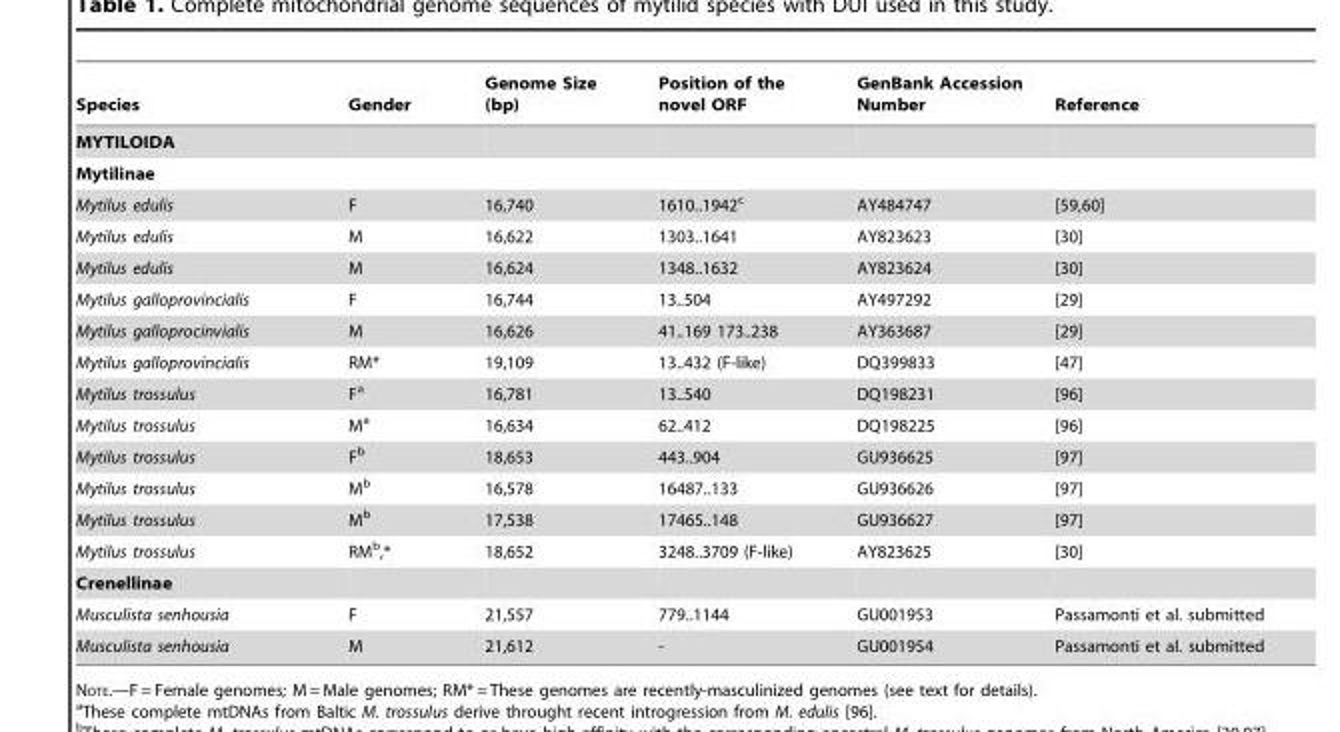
<table><thead><tr><td>Species</td><td>Gender</td><td>Genome Size (bp)</td><td>Position of the novel ORF</td><td>GenBank Accession Number</td><td>Reference</td></tr></thead><tbody><tr><td colspan="6">MYTILOIDA</td></tr><tr><td colspan="6">Mytilinae</td></tr><tr><td>Mytilus edulis</td><td>F</td><td>16,740</td><td>1610..1942<sup>c</sup></td><td>AY484747</td><td>[59,60]</td></tr><tr><td>Mytilus edulis</td><td>M</td><td>16,622</td><td>1303..1641</td><td>AY823623</td><td>[30]</td></tr><tr><td>Mytilus edulis</td><td>M</td><td>16,624</td><td>1348..1632</td><td>AY823624</td><td>[30]</td></tr><tr><td>Mytilus galloprovincialis</td><td>F</td><td>16,744</td><td>13..504</td><td>AY497292</td><td>[29]</td></tr><tr><td>Mytilus galloprocinvialis</td><td>M</td><td>16,626</td><td>41..169 173..238</td><td>AY363687</td><td>[29]</td></tr><tr><td>Mytilus galloprovincialis</td><td>RM*</td><td>19,109</td><td>13..432 (F-like)</td><td>DQ399833</td><td>[47]</td></tr><tr><td>Mytilus trossulus</td><td>F<sup>a</sup></td><td>16,781</td><td>13..540</td><td>DQ198231</td><td>[96]</td></tr><tr><td>Mytilus trossulus</td><td>M<sup>a</sup></td><td>16,634</td><td>62..412</td><td>DQ198225</td><td>[96]</td></tr><tr><td>Mytilus trossulus</td><td>F<sup>b</sup></td><td>18,653</td><td>443..904</td><td>GU936625</td><td>[97]</td></tr><tr><td>Mytilus trossulus</td><td>M<sup>b</sup></td><td>16,578</td><td>16487..133</td><td>GU936626</td><td>[97]</td></tr><tr><td>Mytilus trossulus</td><td>M<sup>b</sup></td><td>17,538</td><td>17465..148</td><td>GU936627</td><td>[97]</td></tr><tr><td>Mytilus trossulus</td><td>RM<sup>b</sup>,*</td><td>18,652</td><td>3248..3709 (F-like)</td><td>AY823625</td><td>[30]</td></tr><tr><td colspan="6">Crenellinae</td></tr><tr><td>Musculista senhousia</td><td>F</td><td>21,557</td><td>779..1144</td><td>GU001953</td><td>Passamonti et al. submitted</td></tr><tr><td>Musculista senhousia</td><td>M</td><td>21,612</td><td>-</td><td>GU001954</td><td>Passamonti et al. submitted</td></tr></tbody></table>